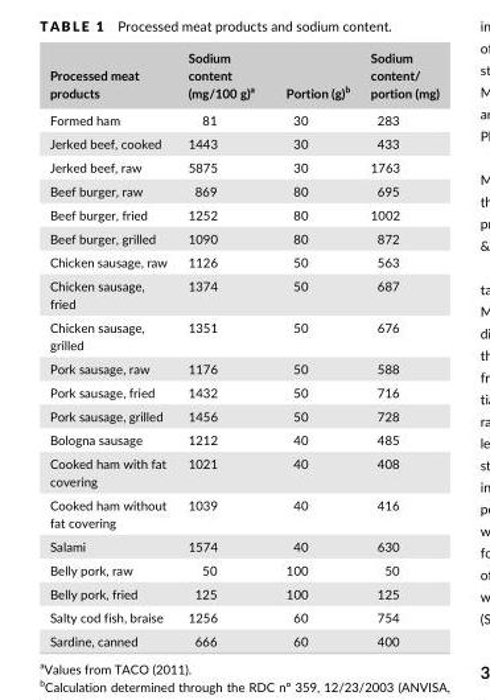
<table><thead><tr><td>Processed meat products</td><td>Sodium content (mg/100 g)<sup>a</sup></td><td>Portion (g)<sup>b</sup></td><td>Sodium content/ portion (mg)</td></tr></thead><tbody><tr><td>Formed ham</td><td>81</td><td>30</td><td>283</td></tr><tr><td>Jerked beef, cooked</td><td>1443</td><td>30</td><td>433</td></tr><tr><td>Jerked beef, raw</td><td>5875</td><td>30</td><td>1763</td></tr><tr><td>Beef burger, raw</td><td>869</td><td>80</td><td>695</td></tr><tr><td>Beef burger, fried</td><td>1252</td><td>80</td><td>1002</td></tr><tr><td>Beef burger, grilled</td><td>1090</td><td>80</td><td>872</td></tr><tr><td>Chicken sausage, raw</td><td>1126</td><td>50</td><td>563</td></tr><tr><td>Chicken sausage, fried</td><td>1374</td><td>50</td><td>687</td></tr><tr><td>Chicken sausage, grilled</td><td>1351</td><td>50</td><td>676</td></tr><tr><td>Pork sausage, raw</td><td>1176</td><td>50</td><td>588</td></tr><tr><td>Pork sausage, fried</td><td>1432</td><td>50</td><td>716</td></tr><tr><td>Pork sausage, grilled</td><td>1456</td><td>50</td><td>728</td></tr><tr><td>Bologna sausage</td><td>1212</td><td>40</td><td>485</td></tr><tr><td>Cooked ham with fat covering</td><td>1021</td><td>40</td><td>408</td></tr><tr><td>Cooked ham without fat covering</td><td>1039</td><td>40</td><td>416</td></tr><tr><td>Salami</td><td>1574</td><td>40</td><td>630</td></tr><tr><td>Belly pork, raw</td><td>50</td><td>100</td><td>50</td></tr><tr><td>Belly pork, fried</td><td>125</td><td>100</td><td>125</td></tr><tr><td>Salty cod fish, braise</td><td>1256</td><td>60</td><td>754</td></tr><tr><td>Sardine, canned</td><td>666</td><td>60</td><td>400</td></tr></tbody></table>